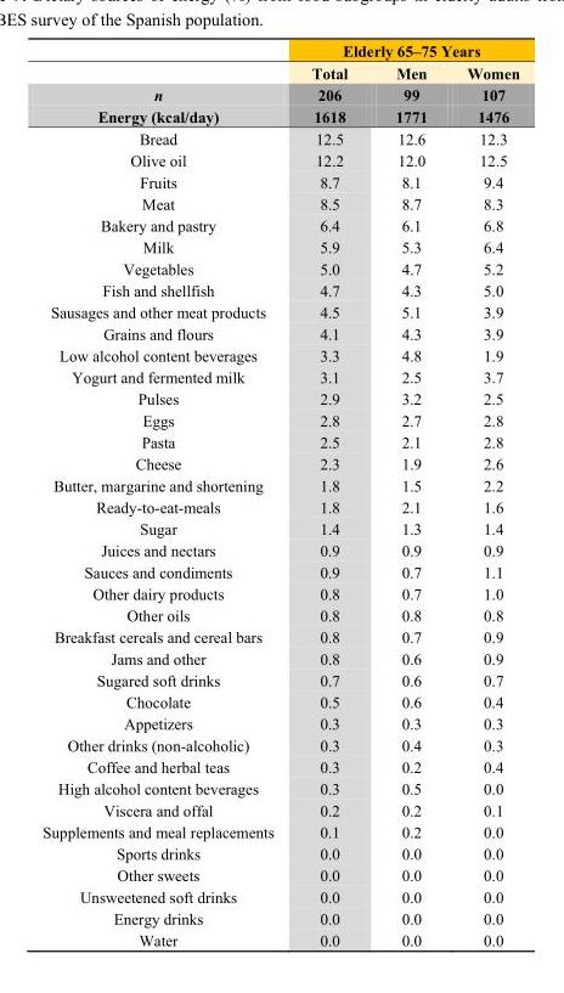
<table><thead><tr><td rowspan="4">n Energy (kcal/day)</td><td colspan="3">Elderly 65–75 Years</td></tr><tr><td rowspan="3">Total 206 1618</td><td rowspan="3">Men 99 1771</td><td rowspan="3">Women 107 1476</td></tr><tr></tr><tr></tr></thead><tbody><tr><td>Bread</td><td>12.5</td><td>12.6</td><td>12.3</td></tr><tr><td>Olive oil</td><td>12.2</td><td>12.0</td><td>12.5</td></tr><tr><td>Fruits</td><td>8.7</td><td>8.1</td><td>9.4</td></tr><tr><td>Meat</td><td>8.5</td><td>8.7</td><td>8.3</td></tr><tr><td>Bakery and pastry</td><td>6.4</td><td>6.1</td><td>6.8</td></tr><tr><td>Milk</td><td>5.9</td><td>5.3</td><td>6.4</td></tr><tr><td>Vegetables</td><td>5.0</td><td>4.7</td><td>5.2</td></tr><tr><td>Fish and shellfish</td><td>4.7</td><td>4.3</td><td>5.0</td></tr><tr><td>Sausages and other meat products</td><td>4.5</td><td>5.1</td><td>3.9</td></tr><tr><td>Grains and flours</td><td>4.1</td><td>4.3</td><td>3.9</td></tr><tr><td>Low alcohol content beverages</td><td>3.3</td><td>4.8</td><td>1.9</td></tr><tr><td>Yogurt and fermented milk</td><td>3.1</td><td>2.5</td><td>3.7</td></tr><tr><td>Pulses</td><td>2.9</td><td>3.2</td><td>2.5</td></tr><tr><td>Eggs</td><td>2.8</td><td>2.7</td><td>2.8</td></tr><tr><td>Pasta</td><td>2.5</td><td>2.1</td><td>2.8</td></tr><tr><td>Cheese</td><td>2.3</td><td>1.9</td><td>2.6</td></tr><tr><td>Butter, margarine and shortening</td><td>1.8</td><td>1.5</td><td>2.2</td></tr><tr><td>Ready-to-eat-meals</td><td>1.8</td><td>2.1</td><td>1.6</td></tr><tr><td>Sugar</td><td>1.4</td><td>1.3</td><td>1.4</td></tr><tr><td>Juices and nectars</td><td>0.9</td><td>0.9</td><td>0.9</td></tr><tr><td>Sauces and condiments</td><td>0.9</td><td>0.7</td><td>1.1</td></tr><tr><td>Other dairy products</td><td>0.8</td><td>0.7</td><td>1.0</td></tr><tr><td>Other oils</td><td>0.8</td><td>0.8</td><td>0.8</td></tr><tr><td>Breakfast cereals and cereal bars</td><td>0.8</td><td>0.7</td><td>0.9</td></tr><tr><td>Jams and other</td><td>0.8</td><td>0.6</td><td>0.9</td></tr><tr><td>Sugared soft drinks</td><td>0.7</td><td>0.6</td><td>0.7</td></tr><tr><td>Chocolate</td><td>0.5</td><td>0.6</td><td>0.4</td></tr><tr><td>Appetizers</td><td>0.3</td><td>0.3</td><td>0.3</td></tr><tr><td>Other drinks (non-alcoholic)</td><td>0.3</td><td>0.4</td><td>0.3</td></tr><tr><td>Coffee and herbal teas</td><td>0.3</td><td>0.2</td><td>0.4</td></tr><tr><td>High alcohol content beverages</td><td>0.3</td><td>0.5</td><td>0.0</td></tr><tr><td>Viscera and offal</td><td>0.2</td><td>0.2</td><td>0.1</td></tr><tr><td>Supplements and meal replacements</td><td>0.1</td><td>0.2</td><td>0.0</td></tr><tr><td>Sports drinks</td><td>0.0</td><td>0.0</td><td>0.0</td></tr><tr><td>Other sweets</td><td>0.0</td><td>0.0</td><td>0.0</td></tr><tr><td>Unsweetened soft drinks</td><td>0.0</td><td>0.0</td><td>0.0</td></tr><tr><td>Energy drinks</td><td>0.0</td><td>0.0</td><td>0.0</td></tr><tr><td>Water</td><td>0.0</td><td>0.0</td><td>0.0</td></tr></tbody></table>